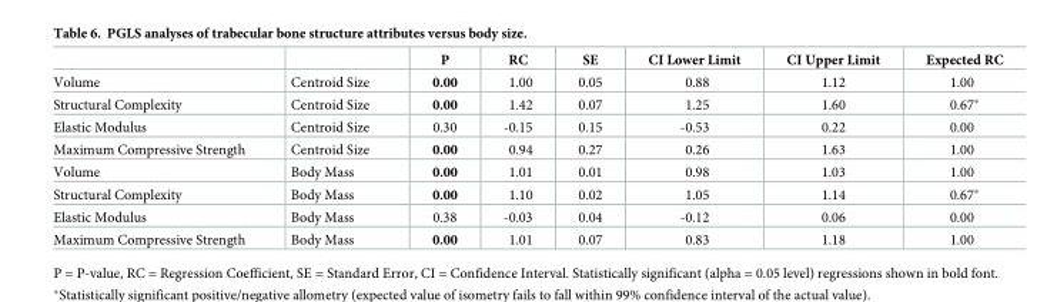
<table><thead><tr><td></td><td></td><td>P</td><td>RC</td><td>SE</td><td>CI Lower Limit</td><td>CI Upper Limit</td><td>Expected RC</td></tr></thead><tbody><tr><td>Volume</td><td>Centroid Size</td><td>0.00</td><td>1.00</td><td>0.05</td><td>0.88</td><td>1.12</td><td>1.00</td></tr><tr><td>Structural Complexity</td><td>Centroid Size</td><td>0.00</td><td>1.42</td><td>0.07</td><td>1.25</td><td>1.60</td><td>0.67*</td></tr><tr><td>Elastic Modulus</td><td>Centroid Size</td><td>0.30</td><td>-0.15</td><td>0.15</td><td>-0.53</td><td>0.22</td><td>0.00</td></tr><tr><td>Maximum Compressive Strength</td><td>Centroid Size</td><td>0.00</td><td>0.94</td><td>0.27</td><td>0.26</td><td>1.63</td><td>1.00</td></tr><tr><td>Volume</td><td>Body Mass</td><td>0.00</td><td>1.01</td><td>0.01</td><td>0.98</td><td>1.03</td><td>1.00</td></tr><tr><td>Structural Complexity</td><td>Body Mass</td><td>0.00</td><td>1.10</td><td>0.02</td><td>1.05</td><td>1.14</td><td>0.67*</td></tr><tr><td>Elastic Modulus</td><td>Body Mass</td><td>0.38</td><td>-0.03</td><td>0.04</td><td>-0.12</td><td>0.06</td><td>0.00</td></tr><tr><td>Maximum Compressive Strength</td><td>Body Mass</td><td>0.00</td><td>1.01</td><td>0.07</td><td>0.83</td><td>1.18</td><td>1.00</td></tr></tbody></table>